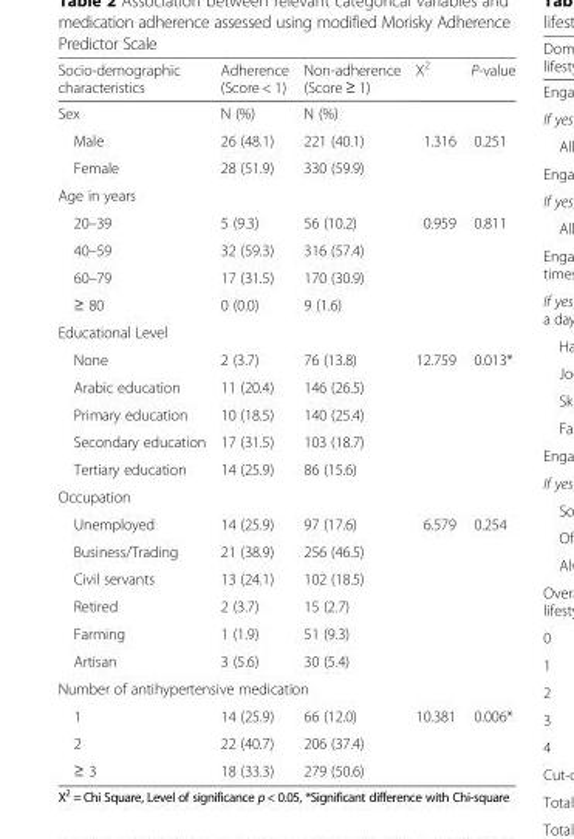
<table><thead><tr><td>Socio-demographic characteristics</td><td>Adherence (Score &lt; 1)</td><td>Non-adherence (Score ≥ 1)</td><td>X<sup>2</sup></td><td>P-value</td></tr></thead><tbody><tr><td>Sex</td><td>N (%)</td><td>N (%)</td><td></td><td></td></tr><tr><td>Male</td><td>26 (48.1)</td><td>221 (40.1)</td><td>1.316</td><td>0.251</td></tr><tr><td>Female</td><td>28 (51.9)</td><td>330 (59.9)</td><td></td><td></td></tr><tr><td colspan="5">Age in years</td></tr><tr><td>20–39</td><td>5 (9.3)</td><td>56 (10.2)</td><td>0.959</td><td>0.811</td></tr><tr><td>40–59</td><td>32 (59.3)</td><td>316 (57.4)</td><td></td><td></td></tr><tr><td>60–79</td><td>17 (31.5)</td><td>170 (30.9)</td><td></td><td></td></tr><tr><td>≥ 80</td><td>0 (0.0)</td><td>9 (1.6)</td><td></td><td></td></tr><tr><td colspan="5">Educational Level</td></tr><tr><td>None</td><td>2 (3.7)</td><td>76 (13.8)</td><td>12.759</td><td>0.013*</td></tr><tr><td>Arabic education</td><td>11 (20.4)</td><td>146 (26.5)</td><td></td><td></td></tr><tr><td>Primary education</td><td>10 (18.5)</td><td>140 (25.4)</td><td></td><td></td></tr><tr><td>Secondary education</td><td>17 (31.5)</td><td>103 (18.7)</td><td></td><td></td></tr><tr><td>Tertiary education</td><td>14 (25.9)</td><td>86 (15.6)</td><td></td><td></td></tr><tr><td colspan="5">Occupation</td></tr><tr><td>Unemployed</td><td>14 (25.9)</td><td>97 (17.6)</td><td>6.579</td><td>0.254</td></tr><tr><td>Business/Trading</td><td>21 (38.9)</td><td>256 (46.5)</td><td></td><td></td></tr><tr><td>Civil servants</td><td>13 (24.1)</td><td>102 (18.5)</td><td></td><td></td></tr><tr><td>Retired</td><td>2 (3.7)</td><td>15 (2.7)</td><td></td><td></td></tr><tr><td>Farming</td><td>1 (1.9)</td><td>51 (9.3)</td><td></td><td></td></tr><tr><td>Artisan</td><td>3 (5.6)</td><td>30 (5.4)</td><td></td><td></td></tr><tr><td colspan="5">Number of antihypertensive medication</td></tr><tr><td>1</td><td>14 (25.9)</td><td>66 (12.0)</td><td>10.381</td><td>0.006*</td></tr><tr><td>2</td><td>22 (40.7)</td><td>206 (37.4)</td><td></td><td></td></tr><tr><td>≥ 3</td><td>18 (33.3)</td><td>279 (50.6)</td><td></td><td></td></tr></tbody></table>